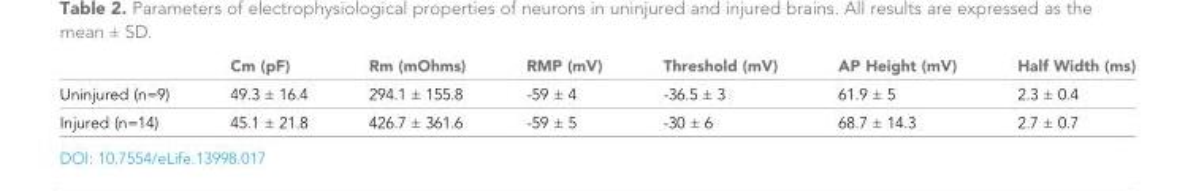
<table><thead><tr><td></td><td>Cm (pF)</td><td>Rm (mOhms)</td><td>RMP (mV)</td><td>Threshold (mV)</td><td>AP Height (mV)</td><td>Half Width (ms)</td></tr></thead><tbody><tr><td>Uninjured (n=9)</td><td>49.3 ± 16.4</td><td>294.1 ± 155.8</td><td>-59 ± 4</td><td>-36.5 ± 3</td><td>61.9 ± 5</td><td>2.3 ± 0.4</td></tr><tr><td>Injured (n=14)</td><td>45.1 ± 21.8</td><td>426.7 ± 361.6</td><td>-59 ± 5</td><td>-30 ± 6</td><td>68.7 ± 14.3</td><td>2.7 ± 0.7</td></tr></tbody></table>